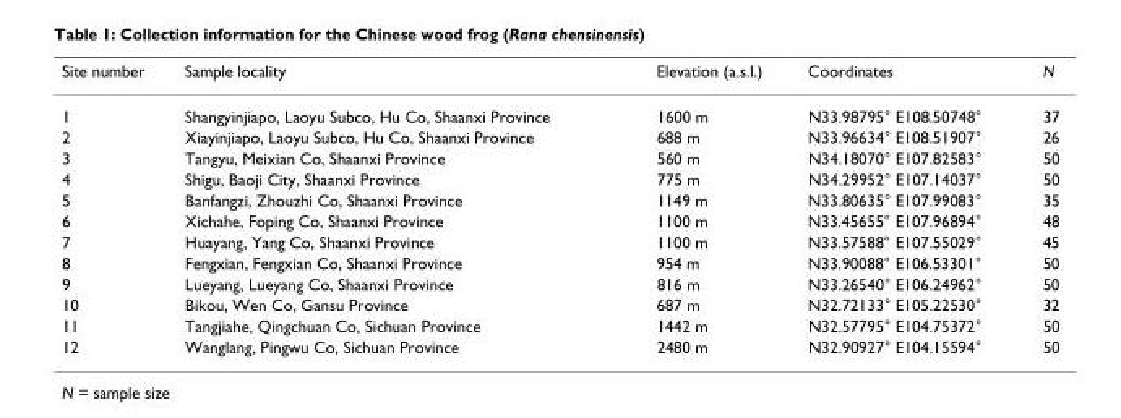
<table><thead><tr><td>Site number</td><td>Sample locality</td><td>Elevation (a.s.l.)</td><td>Coordinates</td><td>N</td></tr></thead><tbody><tr><td>1</td><td>Shangyinjiapo, Laoyu Subco, Hu Co, Shaanxi Province</td><td>1600 m</td><td>N33.98795° E108.50748°</td><td>37</td></tr><tr><td>2</td><td>Xiayinjiapo, Laoyu Subco, Hu Co, Shaanxi Province</td><td>688 m</td><td>N33.96634° E108.51907°</td><td>26</td></tr><tr><td>3</td><td>Tangyu, Meixian Co, Shaanxi Province</td><td>560 m</td><td>N34.18070° E107.82583°</td><td>50</td></tr><tr><td>4</td><td>Shigu, Baoji City, Shaanxi Province</td><td>775 m</td><td>N34.29952° E107.14037°</td><td>50</td></tr><tr><td>5</td><td>Banfangzi, Zhouzhi Co, Shaanxi Province</td><td>1149 m</td><td>N33.80635° E107.99083°</td><td>35</td></tr><tr><td>6</td><td>Xichahe, Foping Co, Shaanxi Province</td><td>1100 m</td><td>N33.45655° E107.96894°</td><td>48</td></tr><tr><td>7</td><td>Huayang, Yang Co, Shaanxi Province</td><td>1100 m</td><td>N33.57588° E107.55029°</td><td>45</td></tr><tr><td>8</td><td>Fengxian, Fengxian Co, Shaanxi Province</td><td>954 m</td><td>N33.90088° E106.53301°</td><td>50</td></tr><tr><td>9</td><td>Lueyang, Lueyang Co, Shaanxi Province</td><td>816 m</td><td>N33.26540° E106.24962°</td><td>50</td></tr><tr><td>10</td><td>Bikou, Wen Co, Gansu Province</td><td>687 m</td><td>N32.72133° E105.22530°</td><td>32</td></tr><tr><td>11</td><td>Tangjiahe, Qingchuan Co, Sichuan Province</td><td>1442 m</td><td>N32.57795° E104.75372°</td><td>50</td></tr><tr><td>12</td><td>Wanglang, Pingwu Co, Sichuan Province</td><td>2480 m</td><td>N32.90927° E104.15594°</td><td>50</td></tr></tbody></table>